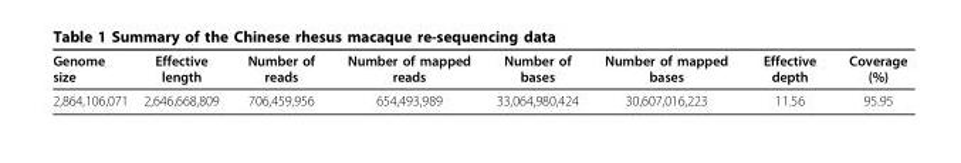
<table><thead><tr><td>Genome size</td><td>Effective length</td><td>Number of reads</td><td>Number of mapped reads</td><td>Number of bases</td><td>Number of mapped bases</td><td>Effective depth</td><td>Coverage (%)</td></tr></thead><tbody><tr><td>2,864,106,071</td><td>2,646,668,809</td><td>706,459,956</td><td>654,493,989</td><td>33,064,980,424</td><td>30,607,016,223</td><td>11.56</td><td>95.95</td></tr></tbody></table>